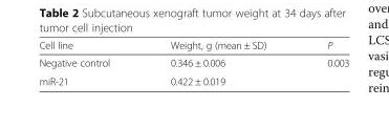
<table><thead><tr><td>Cell line</td><td>Weight, g (mean ± SD)</td><td>P</td></tr></thead><tbody><tr><td>Negative control</td><td>0.346 ± 0.006</td><td rowspan="2">0.003</td></tr><tr><td>miR-21</td><td>0.422 ± 0.019</td></tr></tbody></table>